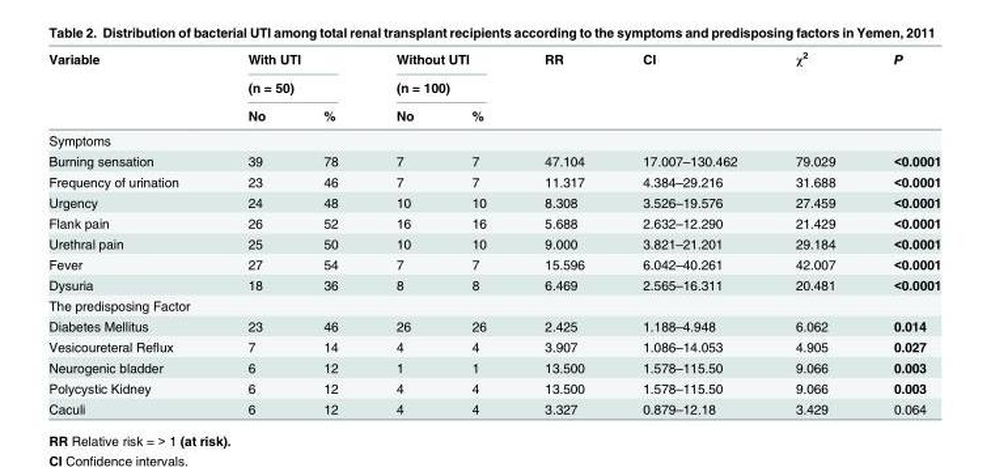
<table><thead><tr><td rowspan="3">Variable</td><td rowspan="2" colspan="2">With UTI (n = 50)</td><td rowspan="2" colspan="2">Without UTI (n = 100)</td><td rowspan="3">RR</td><td rowspan="3">CI</td><td rowspan="3">χ<sup>2</sup></td><td rowspan="3">P</td></tr><tr></tr><tr><td>No</td><td>%</td><td>No</td><td>%</td></tr></thead><tbody><tr><td colspan="9">Symptoms</td></tr><tr><td>Burning sensation</td><td>39</td><td>78</td><td>7</td><td>7</td><td>47.104</td><td>17.007–130.462</td><td>79.029</td><td>&lt;0.0001</td></tr><tr><td>Frequency of urination</td><td>23</td><td>46</td><td>7</td><td>7</td><td>11.317</td><td>4.384–29.216</td><td>31.688</td><td>&lt;0.0001</td></tr><tr><td>Urgency</td><td>24</td><td>48</td><td>10</td><td>10</td><td>8.308</td><td>3.526–19.576</td><td>27.459</td><td>&lt;0.0001</td></tr><tr><td>Flank pain</td><td>26</td><td>52</td><td>16</td><td>16</td><td>5.688</td><td>2.632–12.290</td><td>21.429</td><td>&lt;0.0001</td></tr><tr><td>Urethral pain</td><td>25</td><td>50</td><td>10</td><td>10</td><td>9.000</td><td>3.821–21.201</td><td>29.184</td><td>&lt;0.0001</td></tr><tr><td>Fever</td><td>27</td><td>54</td><td>7</td><td>7</td><td>15.596</td><td>6.042–40.261</td><td>42.007</td><td>&lt;0.0001</td></tr><tr><td>Dysuria</td><td>18</td><td>36</td><td>8</td><td>8</td><td>6.469</td><td>2.565–16.311</td><td>20.481</td><td>&lt;0.0001</td></tr><tr><td colspan="9">The predisposing Factor</td></tr><tr><td>Diabetes Mellitus</td><td>23</td><td>46</td><td>26</td><td>26</td><td>2.425</td><td>1.188–4.948</td><td>6.062</td><td>0.014</td></tr><tr><td>Vesicoureteral Reflux</td><td>7</td><td>14</td><td>4</td><td>4</td><td>3.907</td><td>1.086–14.053</td><td>4.905</td><td>0.027</td></tr><tr><td>Neurogenic bladder</td><td>6</td><td>12</td><td>1</td><td>1</td><td>13.500</td><td>1.578–115.50</td><td>9.066</td><td>0.003</td></tr><tr><td>Polycystic Kidney</td><td>6</td><td>12</td><td>4</td><td>4</td><td>13.500</td><td>1.578–115.50</td><td>9.066</td><td>0.003</td></tr><tr><td>Caculi</td><td>6</td><td>12</td><td>4</td><td>4</td><td>3.327</td><td>0.879–12.18</td><td>3.429</td><td>0.064</td></tr></tbody></table>